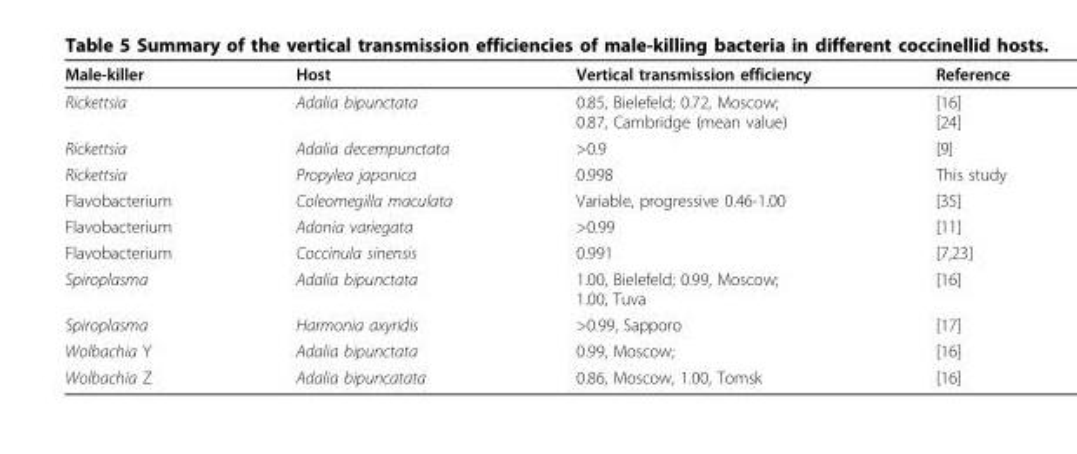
<table><thead><tr><td>Male-killer</td><td>Host</td><td>Vertical transmission efficiency</td><td>Reference</td></tr></thead><tbody><tr><td>Rickettsia</td><td>Adalia bipunctata</td><td>0.85, Bielefeld; 0.72, Moscow; 0.87, Cambridge (mean value)</td><td>[16] [24]</td></tr><tr><td>Rickettsia</td><td>Adalia decempunctata</td><td>&gt;0.9</td><td>[9]</td></tr><tr><td>Rickettsia</td><td>Propylea japonica</td><td>0.998</td><td>This study</td></tr><tr><td>Flavobacterium</td><td>Coleomegilla maculata</td><td>Variable, progressive 0.46-1.00</td><td>[35]</td></tr><tr><td>Flavobacterium</td><td>Adonia variegata</td><td>&gt;0.99</td><td>[11]</td></tr><tr><td>Flavobacterium</td><td>Coccinula sinensis</td><td>0.991</td><td>[7,23]</td></tr><tr><td>Spiroplasma</td><td>Adalia bipunctata</td><td>1.00, Bielefeld; 0.99, Moscow; 1.00, Tuva</td><td>[16]</td></tr><tr><td>Spiroplasma</td><td>Harmonia axyridis</td><td>&gt;0.99, Sapporo</td><td>[17]</td></tr><tr><td>Wolbachia Y</td><td>Adalia bipunctata</td><td>0.99, Moscow;</td><td>[16]</td></tr><tr><td>Wolbachia Z</td><td>Adalia bipuncatata</td><td>0.86, Moscow, 1.00, Tomsk</td><td>[16]</td></tr></tbody></table>